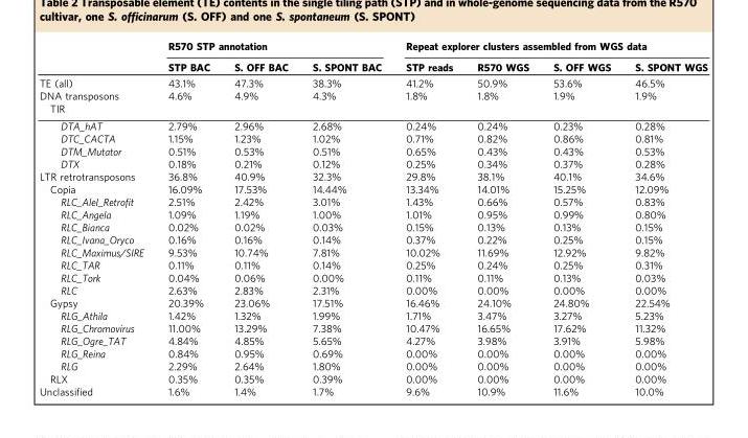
<table><thead><tr><td rowspan="2"></td><td colspan="3">R570 STP annotation</td><td colspan="4">Repeat explorer clusters assembled from WGS data</td></tr><tr><td>STP BAC</td><td>S. OFF BAC</td><td>S. SPONT BAC</td><td>STP reads</td><td>R570 WGS</td><td>S. OFF WGS</td><td>S. SPONT WGS</td></tr></thead><tbody><tr><td>TE (all)</td><td>43.1%</td><td>47.3%</td><td>38.3%</td><td>41.2%</td><td>50.9%</td><td>53.6%</td><td>46.5%</td></tr><tr><td>DNA transposons</td><td>4.6%</td><td>4.9%</td><td>4.3%</td><td>1.8%</td><td>1.8%</td><td>1.9%</td><td>1.9%</td></tr><tr><td colspan="8">TIR</td></tr><tr><td>DTA_hAT</td><td>2.79%</td><td>2.96%</td><td>2.68%</td><td>0.24%</td><td>0.24%</td><td>0.23%</td><td>0.28%</td></tr><tr><td>DTC_CACTA</td><td>1.15%</td><td>1.23%</td><td>1.02%</td><td>0.71%</td><td>0.82%</td><td>0.86%</td><td>0.81%</td></tr><tr><td>DTM_Mutator</td><td>0.51%</td><td>0.53%</td><td>0.51%</td><td>0.65%</td><td>0.43%</td><td>0.43%</td><td>0.53%</td></tr><tr><td>DTX</td><td>0.18%</td><td>0.21%</td><td>0.12%</td><td>0.25%</td><td>0.34%</td><td>0.37%</td><td>0.28%</td></tr><tr><td>LTR retrotransposons</td><td>36.8%</td><td>40.9%</td><td>32.3%</td><td>29.8%</td><td>38.1%</td><td>40.1%</td><td>34.6%</td></tr><tr><td>Copia</td><td>16.09%</td><td>17.53%</td><td>14.44%</td><td>13.34%</td><td>14.01%</td><td>15.25%</td><td>12.09%</td></tr><tr><td>RLC_AleI_Retrofit</td><td>2.51%</td><td>2.42%</td><td>3.01%</td><td>1.43%</td><td>0.66%</td><td>0.57%</td><td>0.83%</td></tr><tr><td>RLC_Angela</td><td>1.09%</td><td>1.19%</td><td>1.00%</td><td>1.01%</td><td>0.95%</td><td>0.99%</td><td>0.80%</td></tr><tr><td>RLC_Bianca</td><td>0.02%</td><td>0.02%</td><td>0.03%</td><td>0.15%</td><td>0.13%</td><td>0.13%</td><td>0.15%</td></tr><tr><td>RLC_Ivana_Oryco</td><td>0.16%</td><td>0.16%</td><td>0.14%</td><td>0.37%</td><td>0.22%</td><td>0.25%</td><td>0.15%</td></tr><tr><td>RLC_Maximus/SIRE</td><td>9.53%</td><td>10.74%</td><td>7.81%</td><td>10.02%</td><td>11.69%</td><td>12.92%</td><td>9.82%</td></tr><tr><td>RLC_TAR</td><td>0.11%</td><td>0.11%</td><td>0.14%</td><td>0.25%</td><td>0.24%</td><td>0.25%</td><td>0.31%</td></tr><tr><td>RLC_Tork</td><td>0.04%</td><td>0.06%</td><td>0.00%</td><td>0.11%</td><td>0.11%</td><td>0.13%</td><td>0.03%</td></tr><tr><td>RLC</td><td>2.63%</td><td>2.83%</td><td>2.31%</td><td>0.00%</td><td>0.00%</td><td>0.00%</td><td>0.00%</td></tr><tr><td>Gypsy</td><td>20.39%</td><td>23.06%</td><td>17.51%</td><td>16.46%</td><td>24.10%</td><td>24.80%</td><td>22.54%</td></tr><tr><td>RLG_Athila</td><td>1.42%</td><td>1.32%</td><td>1.99%</td><td>1.71%</td><td>3.47%</td><td>3.27%</td><td>5.23%</td></tr><tr><td>RLG_Chromovirus</td><td>11.00%</td><td>13.29%</td><td>7.38%</td><td>10.47%</td><td>16.65%</td><td>17.62%</td><td>11.32%</td></tr><tr><td>RLG_Ogre_TAT</td><td>4.84%</td><td>4.85%</td><td>5.65%</td><td>4.27%</td><td>3.98%</td><td>3.91%</td><td>5.98%</td></tr><tr><td>RLG_Reina</td><td>0.84%</td><td>0.95%</td><td>0.69%</td><td>0.00%</td><td>0.00%</td><td>0.00%</td><td>0.00%</td></tr><tr><td>RLG</td><td>2.29%</td><td>2.64%</td><td>1.80%</td><td>0.00%</td><td>0.00%</td><td>0.00%</td><td>0.00%</td></tr><tr><td>RLX</td><td>0.35%</td><td>0.35%</td><td>0.39%</td><td>0.00%</td><td>0.00%</td><td>0.00%</td><td>0.00%</td></tr><tr><td>Unclassified</td><td>1.6%</td><td>1.4%</td><td>1.7%</td><td>9.6%</td><td>10.9%</td><td>11.6%</td><td>10.0%</td></tr></tbody></table>